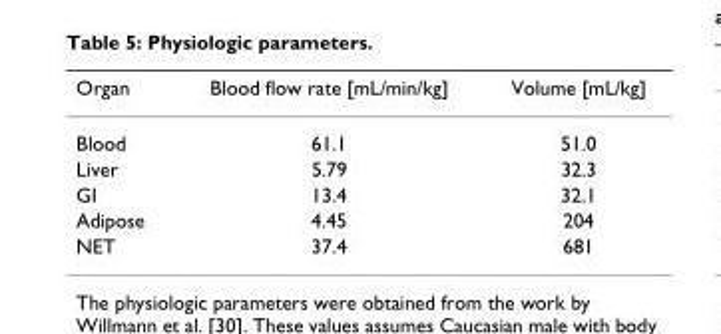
<table><thead><tr><td>Organ</td><td>Blood flow rate [mL/min/kg]</td><td>Volume [mL/kg]</td></tr></thead><tbody><tr><td>Blood</td><td>61.1</td><td>51.0</td></tr><tr><td>Liver</td><td>5.79</td><td>32.3</td></tr><tr><td>GI</td><td>13.4</td><td>32.1</td></tr><tr><td>Adipose</td><td>4.45</td><td>204</td></tr><tr><td>NET</td><td>37.4</td><td>681</td></tr></tbody></table>